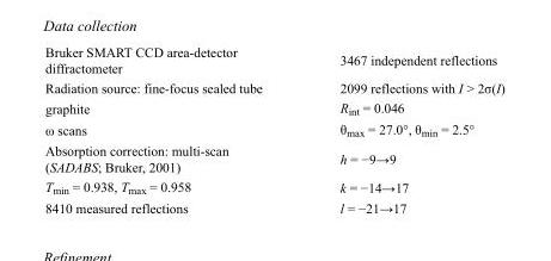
<table><tbody><tr><td>Bruker SMART CCD area-detector diffractometer</td><td>3467 independent reflections</td></tr><tr><td>Radiation source: fine-focus sealed tube</td><td>2099 reflections with I &gt; 2σ(I)</td></tr><tr><td>graphite</td><td>R<sub>int</sub> = 0.046</td></tr><tr><td>ω scans</td><td>θ<sub>max</sub> = 27.0°, θ<sub>min</sub> = 2.5°</td></tr><tr><td>Absorption correction: multi-scan (SADABS; Bruker, 2001)</td><td>h = −9→9</td></tr><tr><td>T<sub>min</sub> = 0.938, T<sub>max</sub> = 0.958</td><td>k = −14→17</td></tr><tr><td>8410 measured reflections</td><td>l = −21→17</td></tr></tbody></table>